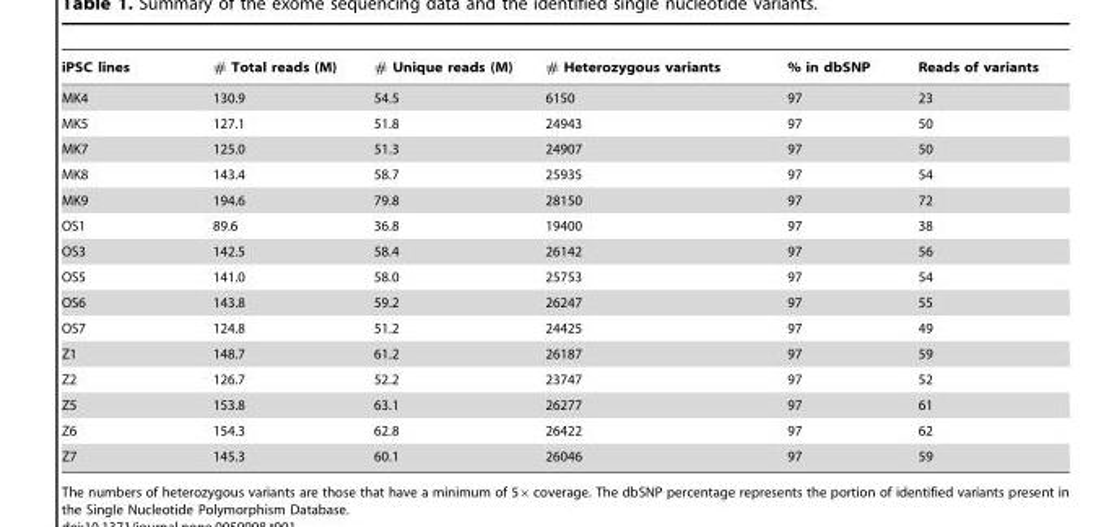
<table><thead><tr><td>iPSC lines</td><td># Total reads (M)</td><td># Unique reads (M)</td><td># Heterozygous variants</td><td>% in dbSNP</td><td>Reads of variants</td></tr></thead><tbody><tr><td>MK4</td><td>130.9</td><td>54.5</td><td>6150</td><td>97</td><td>23</td></tr><tr><td>MK5</td><td>127.1</td><td>51.8</td><td>24943</td><td>97</td><td>50</td></tr><tr><td>MK7</td><td>125.0</td><td>51.3</td><td>24907</td><td>97</td><td>50</td></tr><tr><td>MK8</td><td>143.4</td><td>58.7</td><td>25935</td><td>97</td><td>54</td></tr><tr><td>MK9</td><td>194.6</td><td>79.8</td><td>28150</td><td>97</td><td>72</td></tr><tr><td>OS1</td><td>89.6</td><td>36.8</td><td>19400</td><td>97</td><td>38</td></tr><tr><td>OS3</td><td>142.5</td><td>58.4</td><td>26142</td><td>97</td><td>56</td></tr><tr><td>OS5</td><td>141.0</td><td>58.0</td><td>25753</td><td>97</td><td>54</td></tr><tr><td>OS6</td><td>143.8</td><td>59.2</td><td>26247</td><td>97</td><td>55</td></tr><tr><td>OS7</td><td>124.8</td><td>51.2</td><td>24425</td><td>97</td><td>49</td></tr><tr><td>Z1</td><td>148.7</td><td>61.2</td><td>26187</td><td>97</td><td>59</td></tr><tr><td>Z2</td><td>126.7</td><td>52.2</td><td>23747</td><td>97</td><td>52</td></tr><tr><td>Z5</td><td>153.8</td><td>63.1</td><td>26277</td><td>97</td><td>61</td></tr><tr><td>Z6</td><td>154.3</td><td>62.8</td><td>26422</td><td>97</td><td>62</td></tr><tr><td>Z7</td><td>145.3</td><td>60.1</td><td>26046</td><td>97</td><td>59</td></tr></tbody></table>